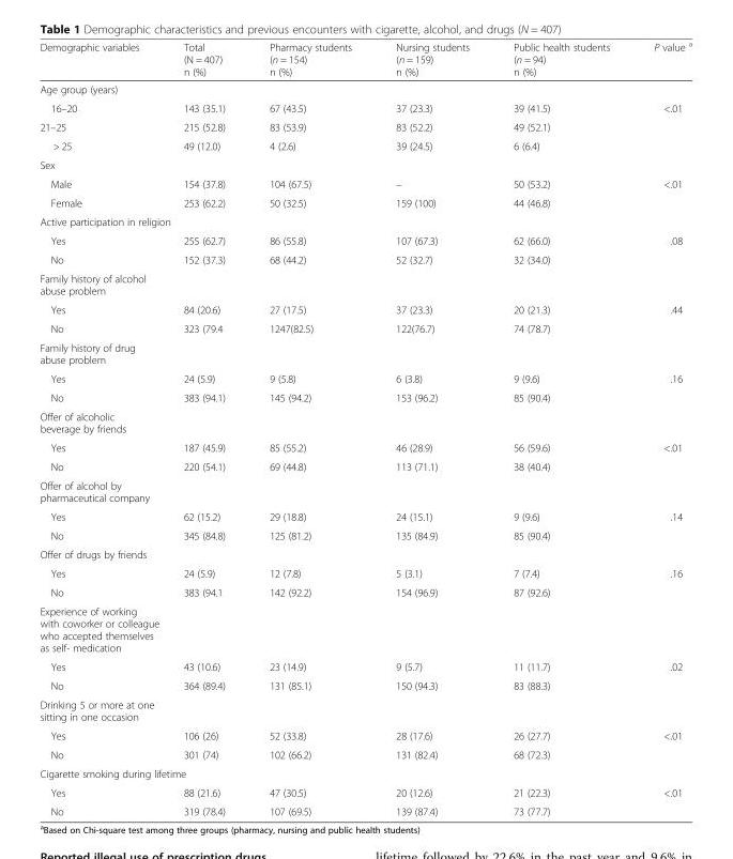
<table><thead><tr><td>Demographic variables</td><td>Total (N = 407) n (%)</td><td>Pharmacy students (n = 154) n (%)</td><td>Nursing students (n = 159) n (%)</td><td>Public health students (n = 94) n (%)</td><td>P value <sup>a</sup></td></tr></thead><tbody><tr><td colspan="6">Age group (years)</td></tr><tr><td>16–20</td><td>143 (35.1)</td><td>67 (43.5)</td><td>37 (23.3)</td><td>39 (41.5)</td><td rowspan="3">&lt;.01</td></tr><tr><td>21–25</td><td>215 (52.8)</td><td>83 (53.9)</td><td>83 (52.2)</td><td>49 (52.1)</td></tr><tr><td>&gt; 25</td><td>49 (12.0)</td><td>4 (2.6)</td><td>39 (24.5)</td><td>6 (6.4)</td></tr><tr><td colspan="6">Sex</td></tr><tr><td>Male</td><td>154 (37.8)</td><td>104 (67.5)</td><td>–</td><td>50 (53.2)</td><td rowspan="2">&lt;.01</td></tr><tr><td>Female</td><td>253 (62.2)</td><td>50 (32.5)</td><td>159 (100)</td><td>44 (46.8)</td></tr><tr><td colspan="6">Active participation in religion</td></tr><tr><td>Yes</td><td>255 (62.7)</td><td>86 (55.8)</td><td>107 (67.3)</td><td>62 (66.0)</td><td rowspan="2">.08</td></tr><tr><td>No</td><td>152 (37.3)</td><td>68 (44.2)</td><td>52 (32.7)</td><td>32 (34.0)</td></tr><tr><td colspan="6">Family history of alcohol abuse problem</td></tr><tr><td>Yes</td><td>84 (20.6)</td><td>27 (17.5)</td><td>37 (23.3)</td><td>20 (21.3)</td><td rowspan="2">.44</td></tr><tr><td>No</td><td>323 (79.4</td><td>1247(82.5)</td><td>122(76.7)</td><td>74 (78.7)</td></tr><tr><td colspan="6">Family history of drug abuse problem</td></tr><tr><td>Yes</td><td>24 (5.9)</td><td>9 (5.8)</td><td>6 (3.8)</td><td>9 (9.6)</td><td rowspan="2">.16</td></tr><tr><td>No</td><td>383 (94.1)</td><td>145 (94.2)</td><td>153 (96.2)</td><td>85 (90.4)</td></tr><tr><td colspan="6">Offer of alcoholic beverage by friends</td></tr><tr><td>Yes</td><td>187 (45.9)</td><td>85 (55.2)</td><td>46 (28.9)</td><td>56 (59.6)</td><td rowspan="2">&lt;.01</td></tr><tr><td>No</td><td>220 (54.1)</td><td>69 (44.8)</td><td>113 (71.1)</td><td>38 (40.4)</td></tr><tr><td colspan="6">Offer of alcohol by pharmaceutical company</td></tr><tr><td>Yes</td><td>62 (15.2)</td><td>29 (18.8)</td><td>24 (15.1)</td><td>9 (9.6)</td><td rowspan="2">.14</td></tr><tr><td>No</td><td>345 (84.8)</td><td>125 (81.2)</td><td>135 (84.9)</td><td>85 (90.4)</td></tr><tr><td colspan="6">Offer of drugs by friends</td></tr><tr><td>Yes</td><td>24 (5.9)</td><td>12 (7.8)</td><td>5 (3.1)</td><td>7 (7.4)</td><td rowspan="2">.16</td></tr><tr><td>No</td><td>383 (94.1</td><td>142 (92.2)</td><td>154 (96.9)</td><td>87 (92.6)</td></tr><tr><td colspan="6">Experience of working with coworker or colleague who accepted themselves as self- medication</td></tr><tr><td>Yes</td><td>43 (10.6)</td><td>23 (14.9)</td><td>9 (5.7)</td><td>11 (11.7)</td><td rowspan="2">.02</td></tr><tr><td>No</td><td>364 (89.4)</td><td>131 (85.1)</td><td>150 (94.3)</td><td>83 (88.3)</td></tr><tr><td colspan="6">Drinking 5 or more at one sitting in one occasion</td></tr><tr><td>Yes</td><td>106 (26)</td><td>52 (33.8)</td><td>28 (17.6)</td><td>26 (27.7)</td><td rowspan="2">&lt;.01</td></tr><tr><td>No</td><td>301 (74)</td><td>102 (66.2)</td><td>131 (82.4)</td><td>68 (72.3)</td></tr><tr><td colspan="6">Cigarette smoking during lifetime</td></tr><tr><td>Yes</td><td>88 (21.6)</td><td>47 (30.5)</td><td>20 (12.6)</td><td>21 (22.3)</td><td rowspan="2">&lt;.01</td></tr><tr><td>No</td><td>319 (78.4)</td><td>107 (69.5)</td><td>139 (87.4)</td><td>73 (77.7)</td></tr></tbody></table>